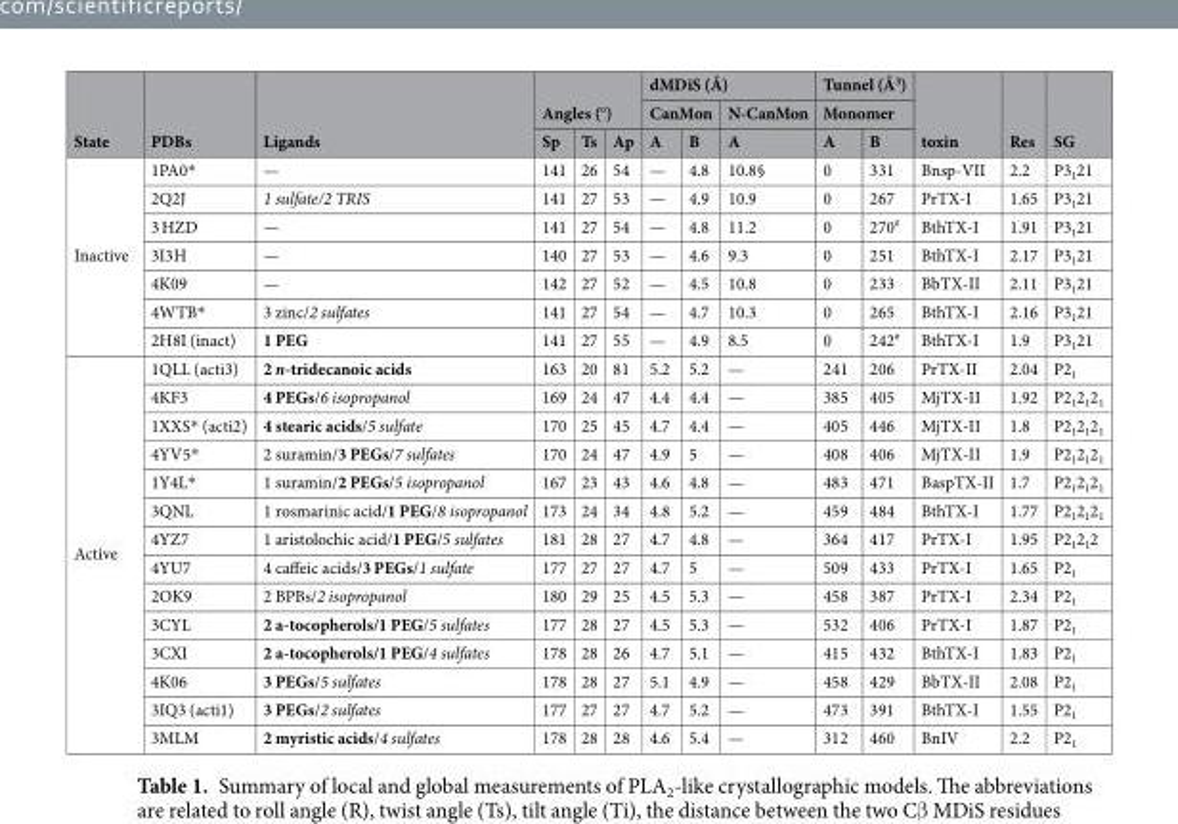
<table><thead><tr><td rowspan="3">State</td><td rowspan="3">PDBs</td><td rowspan="3">Ligands</td><td rowspan="2" colspan="3">Angles (°)</td><td colspan="3">dMDiS (Å)</td><td rowspan="2" colspan="2">Tunnel (Å<sup>3</sup>) Monomer</td><td rowspan="3">toxin</td><td rowspan="3">Res</td><td rowspan="3">SG</td></tr><tr><td colspan="2">CanMon</td><td rowspan="2">N-CanMon A</td></tr><tr><td>Sp</td><td>Ts</td><td>Ap</td><td>A</td><td>B</td><td>A</td><td>B</td></tr></thead><tbody><tr><td rowspan="7">Inactive</td><td>1PA0*</td><td>—</td><td>141</td><td>26</td><td>54</td><td>—</td><td>4.8</td><td>10.8§</td><td>0</td><td>331</td><td>Bnsp-VII</td><td>2.2</td><td>P3<sub>1</sub>21</td></tr><tr><td>2Q2J</td><td>1 sulfate/2 TRIS</td><td>141</td><td>27</td><td>53</td><td>—</td><td>4.9</td><td>10.9</td><td>0</td><td>267</td><td>PrTX-I</td><td>1.65</td><td>P3<sub>1</sub>21</td></tr><tr><td>3 HZD</td><td>—</td><td>141</td><td>27</td><td>54</td><td>—</td><td>4.8</td><td>11.2</td><td>0</td><td>270<sup>#</sup></td><td>BthTX-I</td><td>1.91</td><td>P3<sub>1</sub>21</td></tr><tr><td>3I3H</td><td>—</td><td>140</td><td>27</td><td>53</td><td>—</td><td>4.6</td><td>9.3</td><td>0</td><td>251</td><td>BthTX-I</td><td>2.17</td><td>P3<sub>1</sub>21</td></tr><tr><td>4K09</td><td>—</td><td>142</td><td>27</td><td>52</td><td>—</td><td>4.5</td><td>10.8</td><td>0</td><td>233</td><td>BbTX-II</td><td>2.11</td><td>P3<sub>1</sub>21</td></tr><tr><td>4WTB*</td><td>3 zinc/2 sulfates</td><td>141</td><td>27</td><td>54</td><td>—</td><td>4.7</td><td>10.3</td><td>0</td><td>265</td><td>BthTX-I</td><td>2.16</td><td>P3<sub>1</sub>21</td></tr><tr><td>2H8I (inact)</td><td>1 PEG</td><td>141</td><td>27</td><td>55</td><td>—</td><td>4.9</td><td>8.5</td><td>0</td><td>242<sup>#</sup></td><td>BthTX-I</td><td>1.9</td><td>P3<sub>1</sub>21</td></tr><tr><td rowspan="14">Active</td><td>1QLL (acti3)</td><td>2 n-tridecanoic acids</td><td>163</td><td>20</td><td>81</td><td>5.2</td><td>5.2</td><td>—</td><td>241</td><td>206</td><td>PrTX-II</td><td>2.04</td><td>P2<sub>1</sub></td></tr><tr><td>4KF3</td><td>4 PEGs/6 isopropanol</td><td>169</td><td>24</td><td>47</td><td>4.4</td><td>4.4</td><td>—</td><td>385</td><td>405</td><td>MjTX-II</td><td>1.92</td><td>P2<sub>1</sub>2<sub>1</sub>2<sub>1</sub></td></tr><tr><td>1XXS* (acti2)</td><td>4 stearic acids/5 sulfate</td><td>170</td><td>25</td><td>45</td><td>4.7</td><td>4.4</td><td>—</td><td>405</td><td>446</td><td>MjTX-II</td><td>1.8</td><td>P2<sub>1</sub>2<sub>1</sub>2<sub>1</sub></td></tr><tr><td>4YV5*</td><td>2 suramin/3 PEGs/7 sulfates</td><td>170</td><td>24</td><td>47</td><td>4.9</td><td>5</td><td>—</td><td>408</td><td>406</td><td>MjTX-II</td><td>1.9</td><td>P2<sub>1</sub>2<sub>1</sub>2<sub>1</sub></td></tr><tr><td>1Y4L*</td><td>1 suramin/2 PEGs/5 isopropanol</td><td>167</td><td>23</td><td>43</td><td>4.6</td><td>4.8</td><td>—</td><td>483</td><td>471</td><td>BaspTX-II</td><td>1.7</td><td>P2<sub>1</sub>2<sub>1</sub>2<sub>1</sub></td></tr><tr><td>3QNL</td><td>1 rosmarinic acid/1 PEG/8 isopropanol</td><td>173</td><td>24</td><td>34</td><td>4.8</td><td>5.2</td><td>—</td><td>459</td><td>484</td><td>BthTX-I</td><td>1.77</td><td>P2<sub>1</sub>2<sub>1</sub>2<sub>1</sub></td></tr><tr><td>4YZ7</td><td>1 aristolochic acid/1 PEG/5 sulfates</td><td>181</td><td>28</td><td>27</td><td>4.7</td><td>4.8</td><td>—</td><td>364</td><td>417</td><td>PrTX-I</td><td>1.95</td><td>P2<sub>1</sub>2<sub>1</sub>2</td></tr><tr><td>4YU7</td><td>4 caffeic acids/3 PEGs/1 sulfate</td><td>177</td><td>27</td><td>27</td><td>4.7</td><td>5</td><td>—</td><td>509</td><td>433</td><td>PrTX-I</td><td>1.65</td><td>P2<sub>1</sub></td></tr><tr><td>2OK9</td><td>2 BPBs/2 isopropanol</td><td>180</td><td>29</td><td>25</td><td>4.5</td><td>5.3</td><td>—</td><td>458</td><td>387</td><td>PrTX-I</td><td>2.34</td><td>P2<sub>1</sub></td></tr><tr><td>3CYL</td><td>2 a-tocopherols/1 PEG/5 sulfates</td><td>177</td><td>28</td><td>27</td><td>4.5</td><td>5.3</td><td>—</td><td>532</td><td>406</td><td>PrTX-I</td><td>1.87</td><td>P2<sub>1</sub></td></tr><tr><td>3CXI</td><td>2 a-tocopherols/1 PEG/4 sulfates</td><td>178</td><td>28</td><td>26</td><td>4.7</td><td>5.1</td><td>—</td><td>415</td><td>432</td><td>BthTX-I</td><td>1.83</td><td>P2<sub>1</sub></td></tr><tr><td>4K06</td><td>3 PEGs/5 sulfates</td><td>178</td><td>28</td><td>27</td><td>5.1</td><td>4.9</td><td>—</td><td>458</td><td>429</td><td>BbTX-II</td><td>2.08</td><td>P2<sub>1</sub></td></tr><tr><td>3IQ3 (acti1)</td><td>3 PEGs/2 sulfates</td><td>177</td><td>27</td><td>27</td><td>4.7</td><td>5.2</td><td>—</td><td>473</td><td>391</td><td>BthTX-I</td><td>1.55</td><td>P2<sub>1</sub></td></tr><tr><td>3MLM</td><td>2 myristic acids/4 sulfates</td><td>178</td><td>28</td><td>28</td><td>4.6</td><td>5.4</td><td>—</td><td>312</td><td>460</td><td>BnIV</td><td>2.2</td><td>P2<sub>1</sub></td></tr></tbody></table>